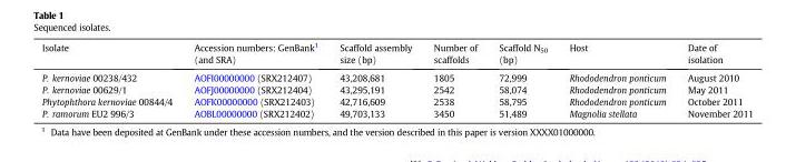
<table><thead><tr><td>Isolate</td><td>Accession numbers: GenBank<sup>1</sup> (and SRA)</td><td>Scaffold assembly size (bp)</td><td>Number of scaffolds</td><td>Scaffold N<sub>50</sub> (bp)</td><td>Host</td><td>Date of isolation</td></tr></thead><tbody><tr><td>P. kernoviae 00238/432</td><td>AOFI00000000 (SRX212407)</td><td>43,208,681</td><td>1805</td><td>72,999</td><td>Rhododendron ponticum</td><td>August 2010</td></tr><tr><td>P. kernoviae 00629/1</td><td>AOFJ00000000 (SRX212404)</td><td>43,295,191</td><td>2542</td><td>58,074</td><td>Rhododendron ponticum</td><td>May 2011</td></tr><tr><td>Phytophthora kernoviae 00844/4</td><td>AOFK00000000 (SRX212403)</td><td>42,716,609</td><td>2538</td><td>58,795</td><td>Rhododendron ponticum</td><td>October 2011</td></tr><tr><td>P. ramorum EU2 996/3</td><td>AOBL00000000 (SRX212402)</td><td>49,703,133</td><td>3450</td><td>51,489</td><td>Magnolia stellata</td><td>November 2011</td></tr></tbody></table>